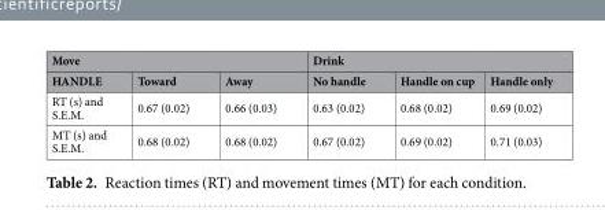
<table><thead><tr><td colspan="3">Move</td><td colspan="3">Drink</td></tr><tr><td>HANDLE</td><td>Toward</td><td>Away</td><td>No handle</td><td>Handle on cup</td><td>Handle only</td></tr></thead><tbody><tr><td>RT (s) and S.E.M.</td><td>0.67 (0.02)</td><td>0.66 (0.03)</td><td>0.63 (0.02)</td><td>0.68 (0.02)</td><td>0.69 (0.02)</td></tr><tr><td>MT (s) and S.E.M.</td><td>0.68 (0.02)</td><td>0.68 (0.02)</td><td>0.67 (0.02)</td><td>0.69 (0.02)</td><td>0.71 (0.03)</td></tr></tbody></table>